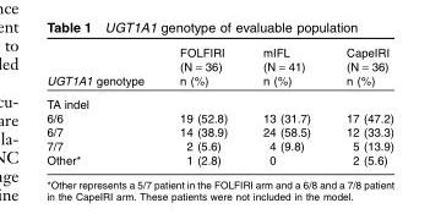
<table><thead><tr><td>UGT1A1 genotype</td><td>FOLFIRI (N = 36) n (%)</td><td>mIFL (N = 41) n (%)</td><td>CapeIRI (N = 36) n (%)</td></tr></thead><tbody><tr><td colspan="4">TA indel</td></tr><tr><td>6/6</td><td>19 (52.8)</td><td>13 (31.7)</td><td>17 (47.2)</td></tr><tr><td>6/7</td><td>14 (38.9)</td><td>24 (58.5)</td><td>12 (33.3)</td></tr><tr><td>7/7</td><td>2 (5.6)</td><td>4 (9.8)</td><td>5 (13.9)</td></tr><tr><td>Other*</td><td>1 (2.8)</td><td>0</td><td>2 (5.6)</td></tr></tbody></table>